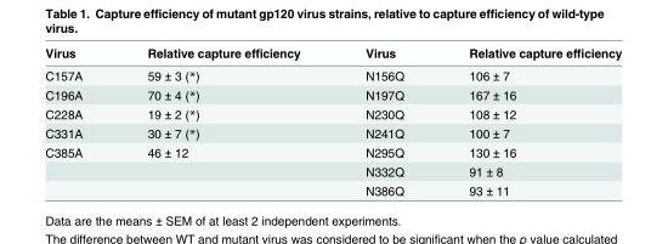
<table><thead><tr><td>Virus</td><td>Relative capture efficiency</td><td>Virus</td><td>Relative capture efficiency</td></tr></thead><tbody><tr><td>C157A</td><td>59 ± 3 (*)</td><td>N156Q</td><td>106 ± 7</td></tr><tr><td>C196A</td><td>70 ± 4 (*)</td><td>N197Q</td><td>167 ± 16</td></tr><tr><td>C228A</td><td>19 ± 2 (*)</td><td>N230Q</td><td>108 ± 12</td></tr><tr><td>C331A</td><td>30 ± 7 (*)</td><td>N241Q</td><td>100 ± 7</td></tr><tr><td rowspan="3">C385A</td><td>46 ± 12</td><td>N295Q</td><td>130 ± 16</td></tr><tr><td></td><td>N332Q</td><td>91 ± 8</td></tr><tr><td></td><td>N386Q</td><td>93 ± 11</td></tr></tbody></table>